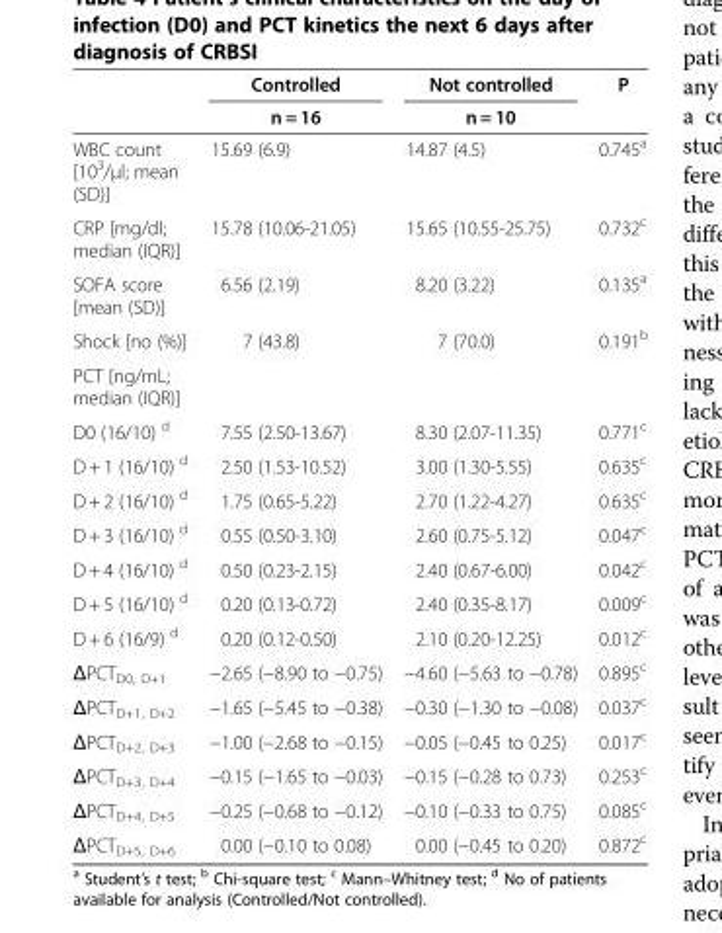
<table><thead><tr><td rowspan="2"></td><td rowspan="2">Controlled n = 16</td><td rowspan="2">Not controlled n = 10</td><td rowspan="2">P</td></tr><tr></tr></thead><tbody><tr><td>WBC count [10<sup>3</sup>/μl; mean (SD)]</td><td>15.69 (6.9)</td><td>14.87 (4.5)</td><td>0.745<sup>a</sup></td></tr><tr><td>CRP [mg/dl; median (IQR)]</td><td>15.78 (10.06-21.05)</td><td>15.65 (10.55-25.75)</td><td>0.732<sup>c</sup></td></tr><tr><td>SOFA score [mean (SD)]</td><td>6.56 (2.19)</td><td>8.20 (3.22)</td><td>0.135<sup>a</sup></td></tr><tr><td>Shock [no (%)]</td><td>7 (43.8)</td><td>7 (70.0)</td><td>0.191<sup>b</sup></td></tr><tr><td colspan="4">PCT [ng/mL; median (IQR)]</td></tr><tr><td>D0 (16/10) <sup>d</sup></td><td>7.55 (2.50-13.67)</td><td>8.30 (2.07-11.35)</td><td>0.771<sup>c</sup></td></tr><tr><td>D + 1 (16/10) <sup>d</sup></td><td>2.50 (1.53-10.52)</td><td>3.00 (1.30-5.55)</td><td>0.635<sup>c</sup></td></tr><tr><td>D + 2 (16/10) <sup>d</sup></td><td>1.75 (0.65-5.22)</td><td>2.70 (1.22-4.27)</td><td>0.635<sup>c</sup></td></tr><tr><td>D + 3 (16/10) <sup>d</sup></td><td>0.55 (0.50-3.10)</td><td>2.60 (0.75-5.12)</td><td>0.047<sup>c</sup></td></tr><tr><td>D + 4 (16/10) <sup>d</sup></td><td>0.50 (0.23-2.15)</td><td>2.40 (0.67-6.00)</td><td>0.042<sup>c</sup></td></tr><tr><td>D + 5 (16/10) <sup>d</sup></td><td>0.20 (0.13-0.72)</td><td>2.40 (0.35-8.17)</td><td>0.009<sup>c</sup></td></tr><tr><td>D + 6 (16/9) <sup>d</sup></td><td>0.20 (0.12-0.50)</td><td>2.10 (0.20-12.25)</td><td>0.012<sup>c</sup></td></tr><tr><td>ΔPCT<sub>D0, D+1</sub></td><td>−2.65 (−8.90 to −0.75)</td><td>−4.60 (−5.63 to −0.78)</td><td>0.895<sup>c</sup></td></tr><tr><td>ΔPCT<sub>D+1, D+2</sub></td><td>−1.65 (−5.45 to −0.38)</td><td>−0.30 (−1.30 to −0.08)</td><td>0.037<sup>c</sup></td></tr><tr><td>ΔPCT<sub>D+2, D+3</sub></td><td>−1.00 (−2.68 to −0.15)</td><td>−0.05 (−0.45 to 0.25)</td><td>0.017<sup>c</sup></td></tr><tr><td>ΔPCT<sub>D+3, D+4</sub></td><td>−0.15 (−1.65 to −0.03)</td><td>−0.15 (−0.28 to 0.73)</td><td>0.253<sup>c</sup></td></tr><tr><td>ΔPCT<sub>D+4, D+5</sub></td><td>−0.25 (−0.68 to −0.12)</td><td>−0.10 (−0.33 to 0.75)</td><td>0.085<sup>c</sup></td></tr><tr><td>ΔPCT<sub>D+5, D+6</sub></td><td>0.00 (−0.10 to 0.08)</td><td>0.00 (−0.45 to 0.20)</td><td>0.872<sup>c</sup></td></tr></tbody></table>